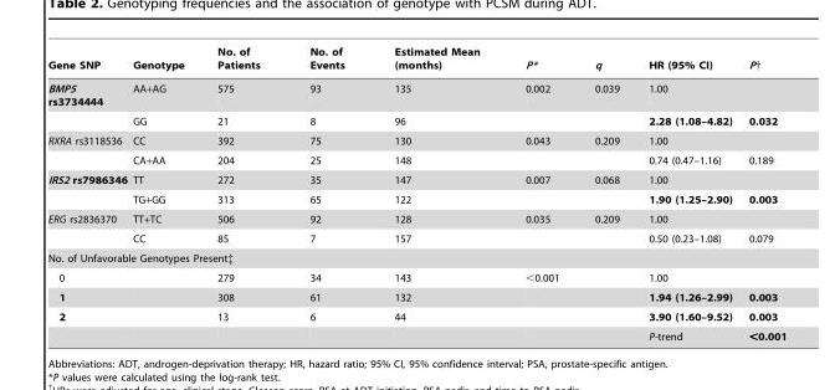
<table><thead><tr><td>Gene SNP</td><td>Genotype</td><td>No. of Patients</td><td>No. of Events</td><td>Estimated Mean (months)</td><td>P*</td><td>q</td><td>HR (95% CI)</td><td>P†</td></tr></thead><tbody><tr><td rowspan="2">BMP5 rs3734444</td><td>AA+AG</td><td>575</td><td>93</td><td>135</td><td>0.002</td><td>0.039</td><td>1.00</td><td></td></tr><tr><td>GG</td><td>21</td><td>8</td><td>96</td><td></td><td></td><td>2.28 (1.08–4.82)</td><td>0.032</td></tr><tr><td rowspan="2">RXRA rs3118536</td><td>CC</td><td>392</td><td>75</td><td>130</td><td>0.043</td><td>0.209</td><td>1.00</td><td></td></tr><tr><td>CA+AA</td><td>204</td><td>25</td><td>148</td><td></td><td></td><td>0.74 (0.47–1.16)</td><td>0.189</td></tr><tr><td rowspan="2">IRS2 rs7986346</td><td>TT</td><td>272</td><td>35</td><td>147</td><td>0.007</td><td>0.068</td><td>1.00</td><td></td></tr><tr><td>TG+GG</td><td>313</td><td>65</td><td>122</td><td></td><td></td><td>1.90 (1.25–2.90)</td><td>0.003</td></tr><tr><td rowspan="2">ERG rs2836370</td><td>TT+TC</td><td>506</td><td>92</td><td>128</td><td>0.035</td><td>0.209</td><td>1.00</td><td></td></tr><tr><td>CC</td><td>85</td><td>7</td><td>157</td><td></td><td></td><td>0.50 (0.23–1.08)</td><td>0.079</td></tr><tr><td colspan="9">No. of Unfavorable Genotypes Present‡</td></tr><tr><td>0</td><td></td><td>279</td><td>34</td><td>143</td><td>&lt;0.001</td><td></td><td>1.00</td><td></td></tr><tr><td>1</td><td></td><td>308</td><td>61</td><td>132</td><td></td><td></td><td>1.94 (1.26–2.99)</td><td>0.003</td></tr><tr><td rowspan="2">2</td><td></td><td>13</td><td>6</td><td>44</td><td></td><td></td><td>3.90 (1.60–9.52)</td><td>0.003</td></tr><tr><td></td><td></td><td></td><td></td><td></td><td></td><td>P-trend</td><td>&lt;0.001</td></tr></tbody></table>